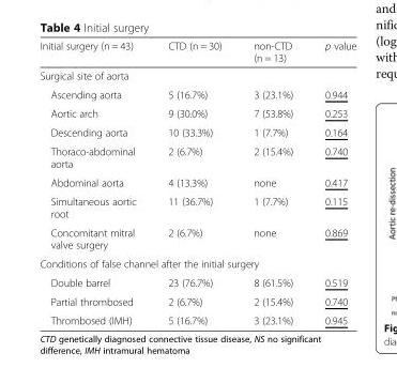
<table><thead><tr><td>Initial surgery (n = 43)</td><td>CTD (n = 30)</td><td>non-CTD (n = 13)</td><td>p value</td></tr></thead><tbody><tr><td colspan="4">Surgical site of aorta</td></tr><tr><td>Ascending aorta</td><td>5 (16.7%)</td><td>3 (23.1%)</td><td>0.944</td></tr><tr><td>Aortic arch</td><td>9 (30.0%)</td><td>7 (53.8%)</td><td>0.253</td></tr><tr><td>Descending aorta</td><td>10 (33.3%)</td><td>1 (7.7%)</td><td>0.164</td></tr><tr><td>Thoraco-abdominal aorta</td><td>2 (6.7%)</td><td>2 (15.4%)</td><td>0.740</td></tr><tr><td>Abdominal aorta</td><td>4 (13.3%)</td><td>none</td><td>0.417</td></tr><tr><td>Simultaneous aortic root</td><td>11 (36.7%)</td><td>1 (7.7%)</td><td>0.115</td></tr><tr><td>Concomitant mitral valve surgery</td><td>2 (6.7%)</td><td>none</td><td>0.869</td></tr><tr><td colspan="4">Conditions of false channel after the initial surgery</td></tr><tr><td>Double barrel</td><td>23 (76.7%)</td><td>8 (61.5%)</td><td>0.519</td></tr><tr><td>Partial thrombosed</td><td>2 (6.7%)</td><td>2 (15.4%)</td><td>0.740</td></tr><tr><td>Thrombosed (IMH)</td><td>5 (16.7%)</td><td>3 (23.1%)</td><td>0.945</td></tr></tbody></table>